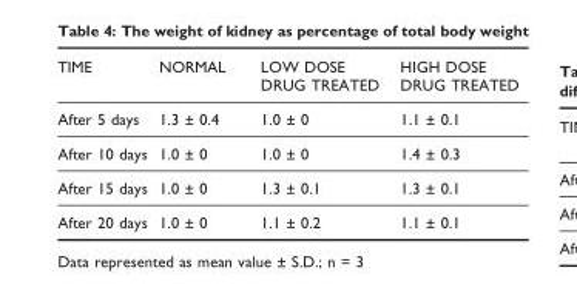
<table><thead><tr><td>TIME</td><td>NORMAL</td><td>LOW DOSE DRUG TREATED</td><td>HIGH DOSE DRUG TREATED</td></tr></thead><tbody><tr><td>After 5 days</td><td>1.3 ± 0.4</td><td>1.0 ± 0</td><td>1.1 ± 0.1</td></tr><tr><td>After 10 days</td><td>1.0 ± 0</td><td>1.0 ± 0</td><td>1.4 ± 0.3</td></tr><tr><td>After 15 days</td><td>1.0 ± 0</td><td>1.3 ± 0.1</td><td>1.3 ± 0.1</td></tr><tr><td>After 20 days</td><td>1.0 ± 0</td><td>1.1 ± 0.2</td><td>1.1 ± 0.1</td></tr></tbody></table>